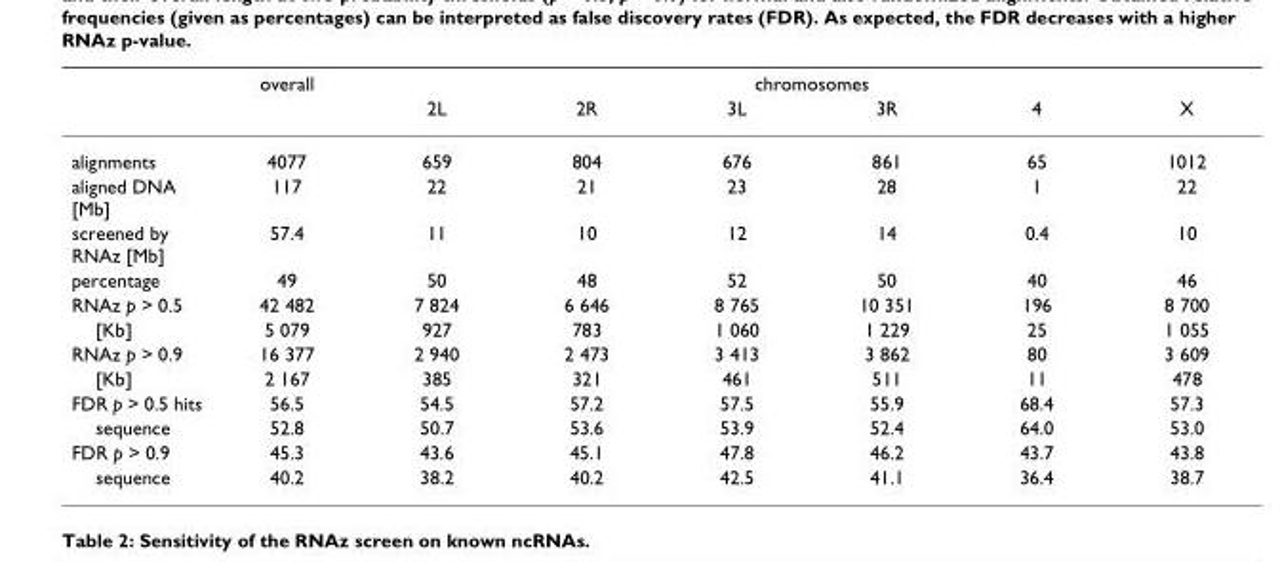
<table><thead><tr><td rowspan="2"></td><td rowspan="2">overall</td><td colspan="6">chromosomes</td></tr><tr><td>2L</td><td>2R</td><td>3L</td><td>3R</td><td>4</td><td>X</td></tr></thead><tbody><tr><td>alignments</td><td>4077</td><td>659</td><td>804</td><td>676</td><td>861</td><td>65</td><td>1012</td></tr><tr><td>aligned DNA [Mb]</td><td>117</td><td>22</td><td>21</td><td>23</td><td>28</td><td>1</td><td>22</td></tr><tr><td>screened by RNAz [Mb]</td><td>57.4</td><td>11</td><td>10</td><td>12</td><td>14</td><td>0.4</td><td>10</td></tr><tr><td>percentage</td><td>49</td><td>50</td><td>48</td><td>52</td><td>50</td><td>40</td><td>46</td></tr><tr><td>RNAz p &gt; 0.5</td><td>42 482</td><td>7 824</td><td>6 646</td><td>8 765</td><td>10 351</td><td>196</td><td>8 700</td></tr><tr><td>[Kb]</td><td>5 079</td><td>927</td><td>783</td><td>1 060</td><td>1 229</td><td>25</td><td>1 055</td></tr><tr><td>RNAz p &gt; 0.9</td><td>16 377</td><td>2 940</td><td>2 473</td><td>3 413</td><td>3 862</td><td>80</td><td>3 609</td></tr><tr><td>[Kb]</td><td>2 167</td><td>385</td><td>321</td><td>461</td><td>511</td><td>11</td><td>478</td></tr><tr><td>FDR p &gt; 0.5 hits</td><td>56.5</td><td>54.5</td><td>57.2</td><td>57.5</td><td>55.9</td><td>68.4</td><td>57.3</td></tr><tr><td>sequence</td><td>52.8</td><td>50.7</td><td>53.6</td><td>53.9</td><td>52.4</td><td>64.0</td><td>53.0</td></tr><tr><td>FDR p &gt; 0.9</td><td>45.3</td><td>43.6</td><td>45.1</td><td>47.8</td><td>46.2</td><td>43.7</td><td>43.8</td></tr><tr><td>sequence</td><td>40.2</td><td>38.2</td><td>40.2</td><td>42.5</td><td>41.1</td><td>36.4</td><td>38.7</td></tr></tbody></table>